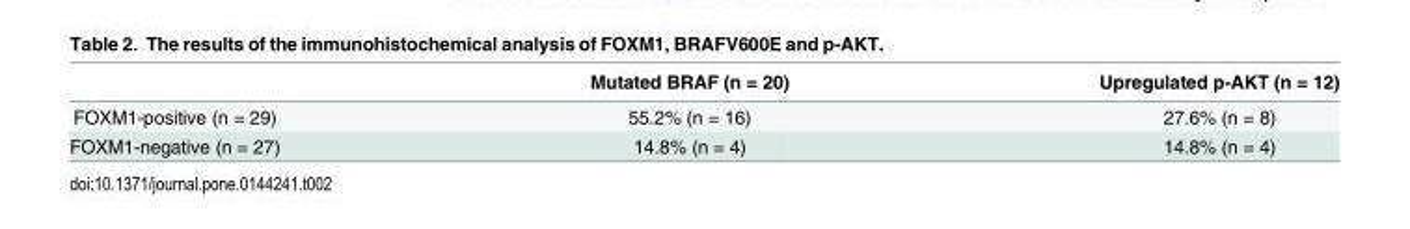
<table><thead><tr><td></td><td>Mutated BRAF (n = 20)</td><td>Upregulated p-AKT (n = 12)</td></tr></thead><tbody><tr><td>FOXM1-positive (n = 29)</td><td>55.2% (n = 16)</td><td>27.6% (n = 8)</td></tr><tr><td>FOXM1-negative (n = 27)</td><td>14.8% (n = 4)</td><td>14.8% (n = 4)</td></tr></tbody></table>